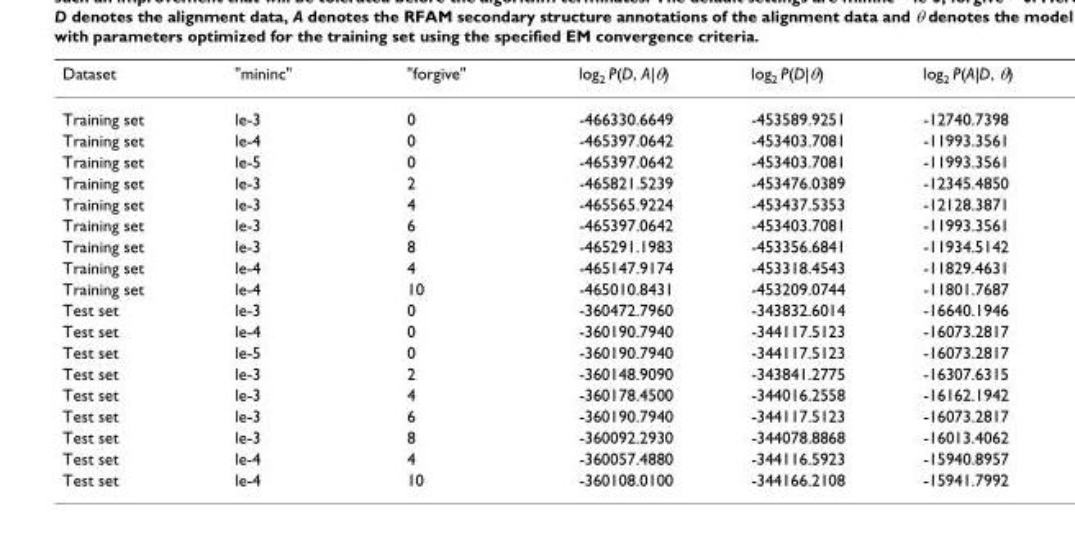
<table><thead><tr><td>Dataset</td><td>&quot;mininc&quot;</td><td>&quot;forgive&quot;</td><td>log<sub>2</sub> P(D, A|θ)</td><td>log<sub>2</sub> P(D|θ)</td><td>log<sub>2</sub> P(A|D, θ)</td></tr></thead><tbody><tr><td>Training set</td><td>le-3</td><td>0</td><td>-466330.6649</td><td>-453589.9251</td><td>-12740.7398</td></tr><tr><td>Training set</td><td>le-4</td><td>0</td><td>-465397.0642</td><td>-453403.7081</td><td>-11993.3561</td></tr><tr><td>Training set</td><td>le-5</td><td>0</td><td>-465397.0642</td><td>-453403.7081</td><td>-11993.3561</td></tr><tr><td>Training set</td><td>le-3</td><td>2</td><td>-465821.5239</td><td>-453476.0389</td><td>-12345.4850</td></tr><tr><td>Training set</td><td>le-3</td><td>4</td><td>-465565.9224</td><td>-453437.5353</td><td>-12128.3871</td></tr><tr><td>Training set</td><td>le-3</td><td>6</td><td>-465397.0642</td><td>-453403.7081</td><td>-11993.3561</td></tr><tr><td>Training set</td><td>le-3</td><td>8</td><td>-465291.1983</td><td>-453356.6841</td><td>-11934.5142</td></tr><tr><td>Training set</td><td>le-4</td><td>4</td><td>-465147.9174</td><td>-453318.4543</td><td>-11829.4631</td></tr><tr><td>Training set</td><td>le-4</td><td>10</td><td>-465010.8431</td><td>-453209.0744</td><td>-11801.7687</td></tr><tr><td>Test set</td><td>le-3</td><td>0</td><td>-360472.7960</td><td>-343832.6014</td><td>-16640.1946</td></tr><tr><td>Test set</td><td>le-4</td><td>0</td><td>-360190.7940</td><td>-344117.5123</td><td>-16073.2817</td></tr><tr><td>Test set</td><td>le-5</td><td>0</td><td>-360190.7940</td><td>-344117.5123</td><td>-16073.2817</td></tr><tr><td>Test set</td><td>le-3</td><td>2</td><td>-360148.9090</td><td>-343841.2775</td><td>-16307.6315</td></tr><tr><td>Test set</td><td>le-3</td><td>4</td><td>-360178.4500</td><td>-344016.2558</td><td>-16162.1942</td></tr><tr><td>Test set</td><td>le-3</td><td>6</td><td>-360190.7940</td><td>-344117.5123</td><td>-16073.2817</td></tr><tr><td>Test set</td><td>le-3</td><td>8</td><td>-360092.2930</td><td>-344078.8868</td><td>-16013.4062</td></tr><tr><td>Test set</td><td>le-4</td><td>4</td><td>-360057.4880</td><td>-344116.5923</td><td>-15940.8957</td></tr><tr><td>Test set</td><td>le-4</td><td>10</td><td>-360108.0100</td><td>-344166.2108</td><td>-15941.7992</td></tr></tbody></table>